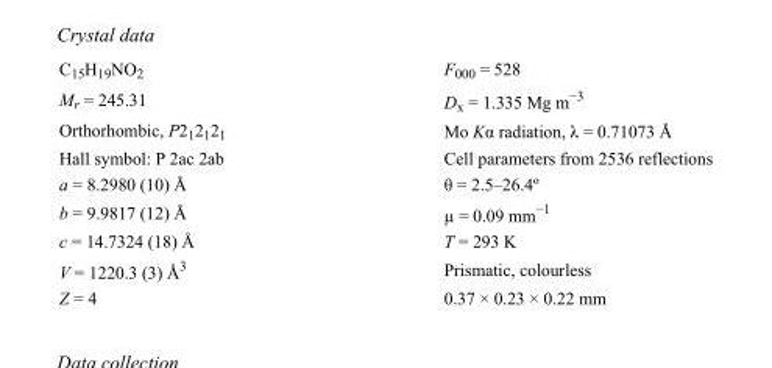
<table><tbody><tr><td>C<sub>15</sub>H<sub>19</sub>NO<sub>2</sub></td><td>F000 = 528</td></tr><tr><td>M<sub>r</sub> = 245.31</td><td>D<sub>x</sub> = 1.335 Mg m<sup>−3</sup></td></tr><tr><td>Orthorhombic, P2<sub>1</sub>2<sub>1</sub>2<sub>1</sub></td><td>Mo Kα radiation, λ = 0.71073 Å</td></tr><tr><td>Hall symbol: P 2ac 2ab</td><td>Cell parameters from 2536 reflections</td></tr><tr><td>a = 8.2980 (10) Å</td><td>θ = 2.5–26.4º</td></tr><tr><td>b = 9.9817 (12) Å</td><td>µ = 0.09 mm<sup>−1</sup></td></tr><tr><td>c = 14.7324 (18) Å</td><td>T = 293 K</td></tr><tr><td>V = 1220.3 (3) Å<sup>3</sup></td><td>Prismatic, colourless</td></tr><tr><td>Z = 4</td><td>0.37 × 0.23 × 0.22 mm</td></tr></tbody></table>